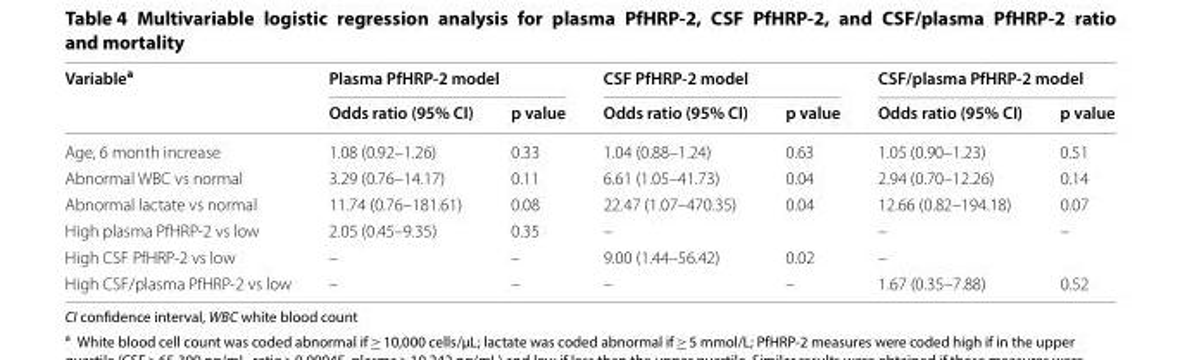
<table><thead><tr><td rowspan="2">Variable<sup>a</sup></td><td colspan="2">Plasma PfHRP‑2 model</td><td colspan="2">CSF PfHRP‑2 model</td><td colspan="2">CSF/plasma PfHRP‑2 model</td></tr><tr><td>Odds ratio (95% CI)</td><td>p value</td><td>Odds ratio (95% CI)</td><td>p value</td><td>Odds ratio (95% CI)</td><td>p value</td></tr></thead><tbody><tr><td>Age, 6 month increase</td><td>1.08 (0.92–1.26)</td><td>0.33</td><td>1.04 (0.88–1.24)</td><td>0.63</td><td>1.05 (0.90–1.23)</td><td>0.51</td></tr><tr><td>Abnormal WBC vs normal</td><td>3.29 (0.76–14.17)</td><td>0.11</td><td>6.61 (1.05–41.73)</td><td>0.04</td><td>2.94 (0.70–12.26)</td><td>0.14</td></tr><tr><td>Abnormal lactate vs normal</td><td>11.74 (0.76–181.61)</td><td>0.08</td><td>22.47 (1.07–470.35)</td><td>0.04</td><td>12.66 (0.82–194.18)</td><td>0.07</td></tr><tr><td>High plasma PfHRP-2 vs low</td><td>2.05 (0.45–9.35)</td><td>0.35</td><td>–</td><td></td><td>–</td><td>–</td></tr><tr><td>High CSF PfHRP-2 vs low</td><td>–</td><td>–</td><td>9.00 (1.44–56.42)</td><td>0.02</td><td>–</td><td></td></tr><tr><td>High CSF/plasma PfHRP-2 vs low</td><td>–</td><td>–</td><td>–</td><td>–</td><td>1.67 (0.35–7.88)</td><td>0.52</td></tr></tbody></table>